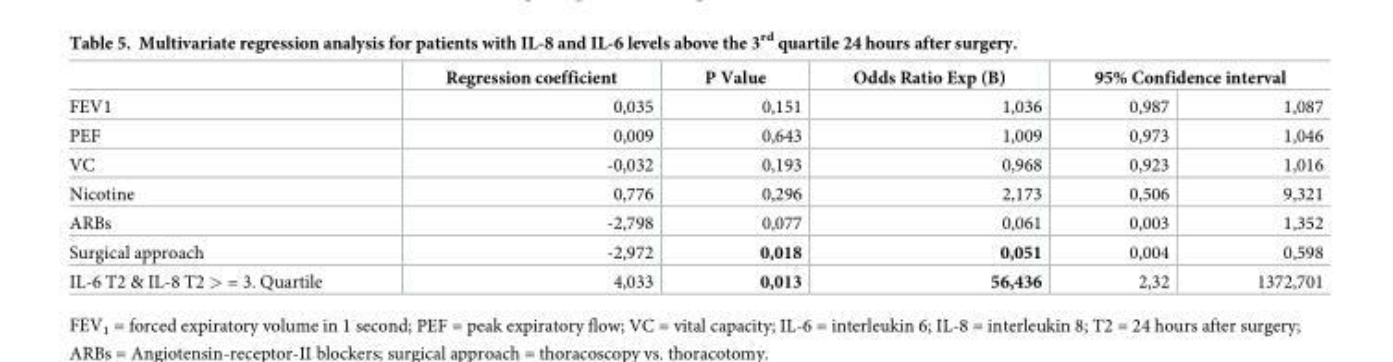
<table><thead><tr><td rowspan="2">FEV1</td><td rowspan="2">Regression coefficient 0,035</td><td rowspan="2">P Value 0,151</td><td rowspan="2">Odds Ratio Exp (B) 1,036</td><td colspan="2">95% Confidence interval</td></tr><tr><td>0,987</td><td>1,087</td></tr></thead><tbody><tr><td>PEF</td><td>0,009</td><td>0,643</td><td>1,009</td><td>0,973</td><td>1,046</td></tr><tr><td>VC</td><td>-0,032</td><td>0,193</td><td>0,968</td><td>0,923</td><td>1,016</td></tr><tr><td>Nicotine</td><td>0,776</td><td>0,296</td><td>2,173</td><td>0,506</td><td>9,321</td></tr><tr><td>ARBs</td><td>-2,798</td><td>0,077</td><td>0,061</td><td>0,003</td><td>1,352</td></tr><tr><td>Surgical approach</td><td>-2,972</td><td>0,018</td><td>0,051</td><td>0,004</td><td>0,598</td></tr><tr><td>IL-6 T2 &amp; IL-8 T2 &gt; = 3. Quartile</td><td>4,033</td><td>0,013</td><td>56,436</td><td>2,32</td><td>1372,701</td></tr></tbody></table>